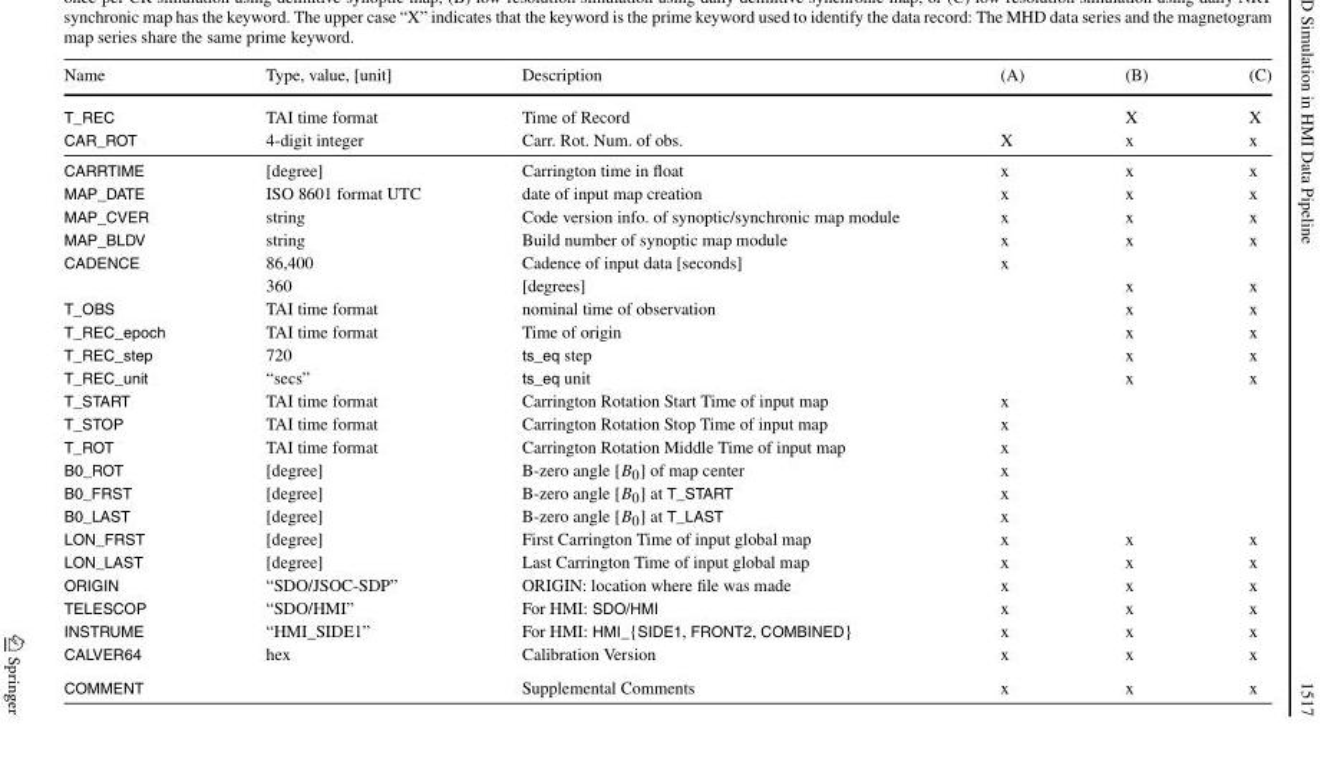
<table><thead><tr><td>Name</td><td>Type, value, [unit]</td><td>Description</td><td>(A)</td><td>(B)</td><td>(C)</td></tr></thead><tbody><tr><td>T_REC</td><td>TAI time format</td><td>Time of Record</td><td></td><td>X</td><td>X</td></tr><tr><td>CAR_ROT</td><td>4-digit integer</td><td>Carr. Rot. Num. of obs.</td><td>X</td><td>x</td><td>x</td></tr><tr><td>CARRTIME</td><td>[degree]</td><td>Carrington time in float</td><td>x</td><td>x</td><td>x</td></tr><tr><td>MAP_DATE</td><td>ISO 8601 format UTC</td><td>date of input map creation</td><td>x</td><td>x</td><td>x</td></tr><tr><td>MAP_CVER</td><td>string</td><td>Code version info. of synoptic/synchronic map module</td><td>x</td><td>x</td><td>x</td></tr><tr><td>MAP_BLDV</td><td>string</td><td>Build number of synoptic map module</td><td>x</td><td>x</td><td>x</td></tr><tr><td rowspan="2">CADENCE</td><td>86,400</td><td>Cadence of input data [seconds]</td><td>x</td><td></td><td></td></tr><tr><td>360</td><td>[degrees]</td><td></td><td>x</td><td>x</td></tr><tr><td>T_OBS</td><td>TAI time format</td><td>nominal time of observation</td><td></td><td>x</td><td>x</td></tr><tr><td>T_REC_epoch</td><td>TAI time format</td><td>Time of origin</td><td></td><td>x</td><td>x</td></tr><tr><td>T_REC_step</td><td>720</td><td>ts_eq step</td><td></td><td>x</td><td>x</td></tr><tr><td>T_REC_unit</td><td>“secs”</td><td>ts_eq unit</td><td></td><td>x</td><td>x</td></tr><tr><td>T_START</td><td>TAI time format</td><td>Carrington Rotation Start Time of input map</td><td>x</td><td></td><td></td></tr><tr><td>T_STOP</td><td>TAI time format</td><td>Carrington Rotation Stop Time of input map</td><td>x</td><td></td><td></td></tr><tr><td>T_ROT</td><td>TAI time format</td><td>Carrington Rotation Middle Time of input map</td><td>x</td><td></td><td></td></tr><tr><td>B0_ROT</td><td>[degree]</td><td>B-zero angle [B<sub>0</sub>] of map center</td><td>x</td><td></td><td></td></tr><tr><td>B0_FRST</td><td>[degree]</td><td>B-zero angle [B<sub>0</sub>] at T_START</td><td>x</td><td></td><td></td></tr><tr><td>B0_LAST</td><td>[degree]</td><td>B-zero angle [B<sub>0</sub>] at T_LAST</td><td>x</td><td></td><td></td></tr><tr><td>LON_FRST</td><td>[degree]</td><td>First Carrington Time of input global map</td><td>x</td><td>x</td><td>x</td></tr><tr><td>LON_LAST</td><td>[degree]</td><td>Last Carrington Time of input global map</td><td>x</td><td>x</td><td>x</td></tr><tr><td>ORIGIN</td><td>“SDO/JSOC-SDP”</td><td>ORIGIN: location where file was made</td><td>x</td><td>x</td><td>x</td></tr><tr><td>TELESCOP</td><td>“SDO/HMI”</td><td>For HMI: SDO/HMI</td><td>x</td><td>x</td><td>x</td></tr><tr><td>INSTRUME</td><td>“HMI_SIDE1”</td><td>For HMI: HMI_{SIDE1, FRONT2, COMBINED}</td><td>x</td><td>x</td><td>x</td></tr><tr><td>CALVER64</td><td>hex</td><td>Calibration Version</td><td>x</td><td>x</td><td>x</td></tr><tr><td>COMMENT</td><td></td><td>Supplemental Comments</td><td>x</td><td>x</td><td>x</td></tr></tbody></table>